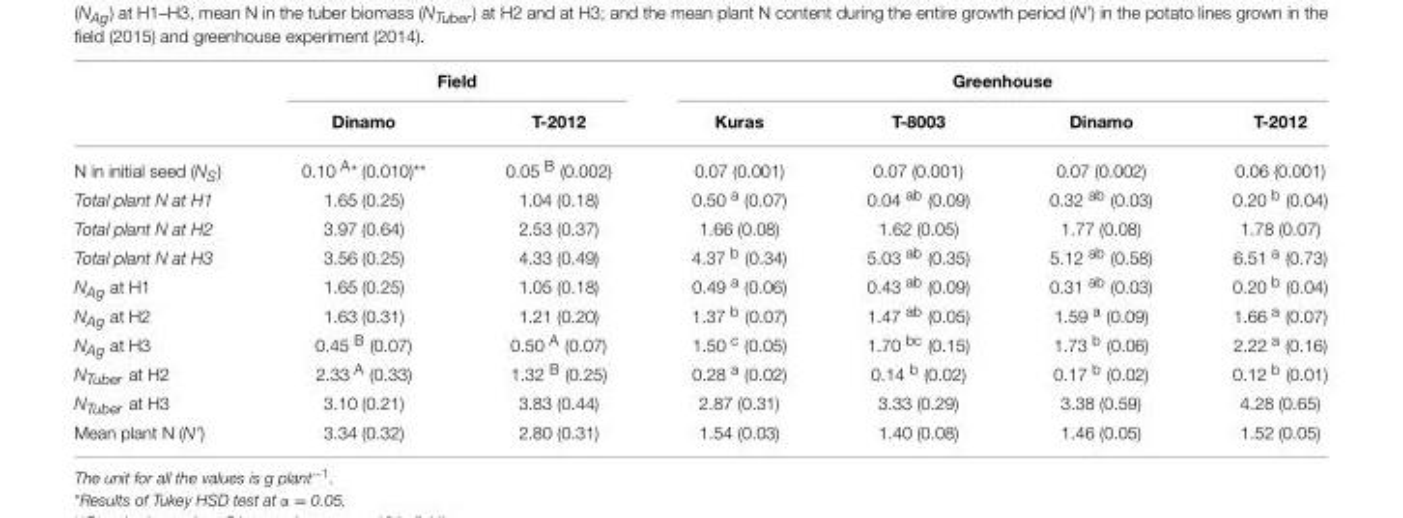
<table><thead><tr><td rowspan="2"></td><td colspan="2">Field</td><td colspan="4">Greenhouse</td></tr><tr><td>Dinamo</td><td>T-2012</td><td>Kuras</td><td>T-8003</td><td>Dinamo</td><td>T-2012</td></tr></thead><tbody><tr><td>N in initial seed (NS)</td><td>0.10 <sup>A*</sup> (0.010)**</td><td>0.05 <sup>B</sup> (0.002)</td><td>0.07 (0.001)</td><td>0.07 (0.001)</td><td>0.07 (0.002)</td><td>0.06 (0.001)</td></tr><tr><td>Total plant N at H1</td><td>1.65 (0.25)</td><td>1.04 (0.18)</td><td>0.50 <sup>a</sup> (0.07)</td><td>0.04 <sup>ab</sup> (0.09)</td><td>0.32 <sup>ab</sup> (0.03)</td><td>0.20 <sup>b</sup> (0.04)</td></tr><tr><td>Total plant N at H2</td><td>3.97 (0.64)</td><td>2.53 (0.37)</td><td>1.66 (0.08)</td><td>1.62 (0.05)</td><td>1.77 (0.08)</td><td>1.78 (0.07)</td></tr><tr><td>Total plant N at H3</td><td>3.56 (0.25)</td><td>4.33 (0.49)</td><td>4.37 <sup>b</sup> (0.34)</td><td>5.03 <sup>ab</sup> (0.35)</td><td>5.12 <sup>ab</sup> (0.58)</td><td>6.51 <sup>a</sup> (0.73)</td></tr><tr><td>NAg at H1</td><td>1.65 (0.25)</td><td>1.05 (0.18)</td><td>0.49 <sup>a</sup> (0.06)</td><td>0.43 <sup>ab</sup> (0.09)</td><td>0.31 <sup>ab</sup> (0.03)</td><td>0.20 <sup>b</sup> (0.04)</td></tr><tr><td>NAg at H2</td><td>1.63 (0.31)</td><td>1.21 (0.20)</td><td>1.37 <sup>b</sup> (0.07)</td><td>1.47 <sup>ab</sup> (0.05)</td><td>1.59 <sup>a</sup> (0.09)</td><td>1.66 <sup>a</sup> (0.07)</td></tr><tr><td>NAg at H3</td><td>0.45 <sup>B</sup> (0.07)</td><td>0.50 <sup>A</sup> (0.07)</td><td>1.50 <sup>c</sup> (0.05)</td><td>1.70 <sup>bc</sup> (0.15)</td><td>1.73 <sup>b</sup> (0.06)</td><td>2.22 <sup>a</sup> (0.16)</td></tr><tr><td>NTuber at H2</td><td>2.33 <sup>A</sup> (0.33)</td><td>1.32 <sup>B</sup> (0.25)</td><td>0.28 <sup>a</sup> (0.02)</td><td>0.14 <sup>b</sup> (0.02)</td><td>0.17 <sup>b</sup> (0.02)</td><td>0.12 <sup>b</sup> (0.01)</td></tr><tr><td>NTuber at H3</td><td>3.10 (0.21)</td><td>3.83 (0.44)</td><td>2.87 (0.31)</td><td>3.33 (0.29)</td><td>3.38 (0.59)</td><td>4.28 (0.65)</td></tr><tr><td>Mean plant N (N’)</td><td>3.34 (0.32)</td><td>2.80 (0.31)</td><td>1.54 (0.03)</td><td>1.40 (0.08)</td><td>1.46 (0.05)</td><td>1.52 (0.05)</td></tr></tbody></table>